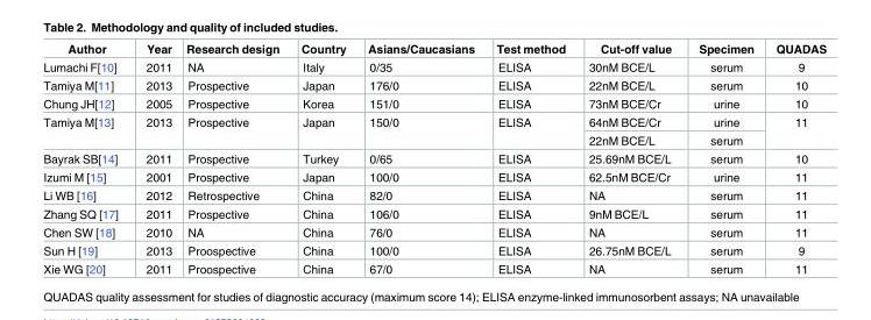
<table><thead><tr><td>Author</td><td>Year</td><td>Research design</td><td>Country</td><td>Asians/Caucasians</td><td>Test method</td><td>Cut-off value</td><td>Specimen</td><td>QUADAS</td></tr></thead><tbody><tr><td>Lumachi F[10]</td><td>2011</td><td>NA</td><td>Italy</td><td>0/35</td><td>ELISA</td><td>30nM BCE/L</td><td>serum</td><td>9</td></tr><tr><td>Tamiya M[11]</td><td>2013</td><td>Prospective</td><td>Japan</td><td>176/0</td><td>ELISA</td><td>22nM BCE/L</td><td>serum</td><td>10</td></tr><tr><td>Chung JH[12]</td><td>2005</td><td>Prospective</td><td>Korea</td><td>151/0</td><td>ELISA</td><td>73nM BCE/Cr</td><td>urine</td><td>10</td></tr><tr><td rowspan="2">Tamiya M[13]</td><td rowspan="2">2013</td><td rowspan="2">Prospective</td><td rowspan="2">Japan</td><td rowspan="2">150/0</td><td rowspan="2">ELISA</td><td>64nM BCE/Cr</td><td>urine</td><td rowspan="2">11</td></tr><tr><td>22nM BCE/L</td><td>serum</td></tr><tr><td>Bayrak SB[14]</td><td>2011</td><td>Prospective</td><td>Turkey</td><td>0/65</td><td>ELISA</td><td>25.69nM BCE/L</td><td>serum</td><td>10</td></tr><tr><td>Izumi M [15]</td><td>2001</td><td>Prospective</td><td>Japan</td><td>100/0</td><td>ELISA</td><td>62.5nM BCE/Cr</td><td>urine</td><td>11</td></tr><tr><td>Li WB [16]</td><td>2012</td><td>Retrospective</td><td>China</td><td>82/0</td><td>ELISA</td><td>NA</td><td>serum</td><td>11</td></tr><tr><td>Zhang SQ [17]</td><td>2011</td><td>Prospective</td><td>China</td><td>106/0</td><td>ELISA</td><td>9nM BCE/L</td><td>serum</td><td>11</td></tr><tr><td>Chen SW [18]</td><td>2010</td><td>NA</td><td>China</td><td>76/0</td><td>ELISA</td><td>NA</td><td>serum</td><td>11</td></tr><tr><td>Sun H [19]</td><td>2013</td><td>Proospective</td><td>China</td><td>100/0</td><td>ELISA</td><td>26.75nM BCE/L</td><td>serum</td><td>9</td></tr><tr><td>Xie WG [20]</td><td>2011</td><td>Proospective</td><td>China</td><td>67/0</td><td>ELISA</td><td>NA</td><td>serum</td><td>11</td></tr></tbody></table>